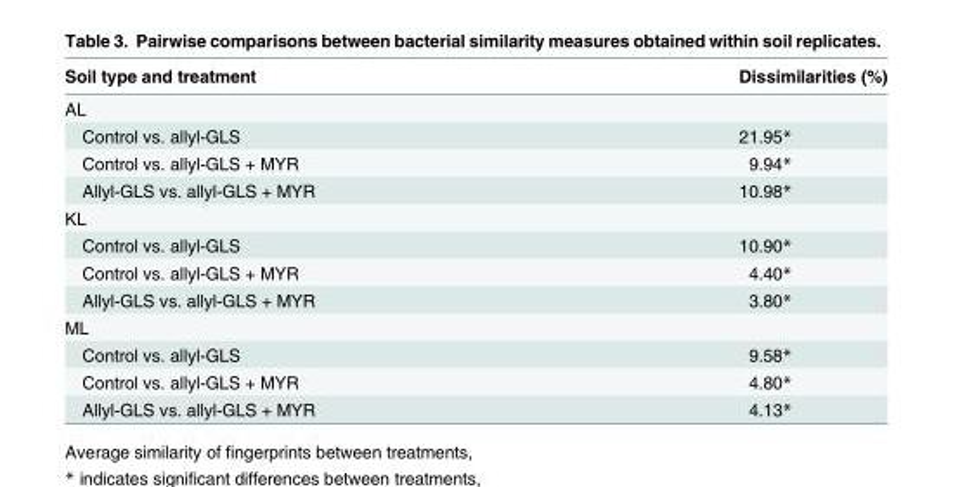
<table><thead><tr><td>Soil type and treatment</td><td>Dissimilarities (%)</td></tr></thead><tbody><tr><td colspan="2">AL</td></tr><tr><td>Control vs. allyl-GLS</td><td>21.95*</td></tr><tr><td>Control vs. allyl-GLS + MYR</td><td>9.94*</td></tr><tr><td>Allyl-GLS vs. allyl-GLS + MYR</td><td>10.98*</td></tr><tr><td colspan="2">KL</td></tr><tr><td>Control vs. allyl-GLS</td><td>10.90*</td></tr><tr><td>Control vs. allyl-GLS + MYR</td><td>4.40*</td></tr><tr><td>Allyl-GLS vs. allyl-GLS + MYR</td><td>3.80*</td></tr><tr><td colspan="2">ML</td></tr><tr><td>Control vs. allyl-GLS</td><td>9.58*</td></tr><tr><td>Control vs. allyl-GLS + MYR</td><td>4.80*</td></tr><tr><td>Allyl-GLS vs. allyl-GLS + MYR</td><td>4.13*</td></tr></tbody></table>